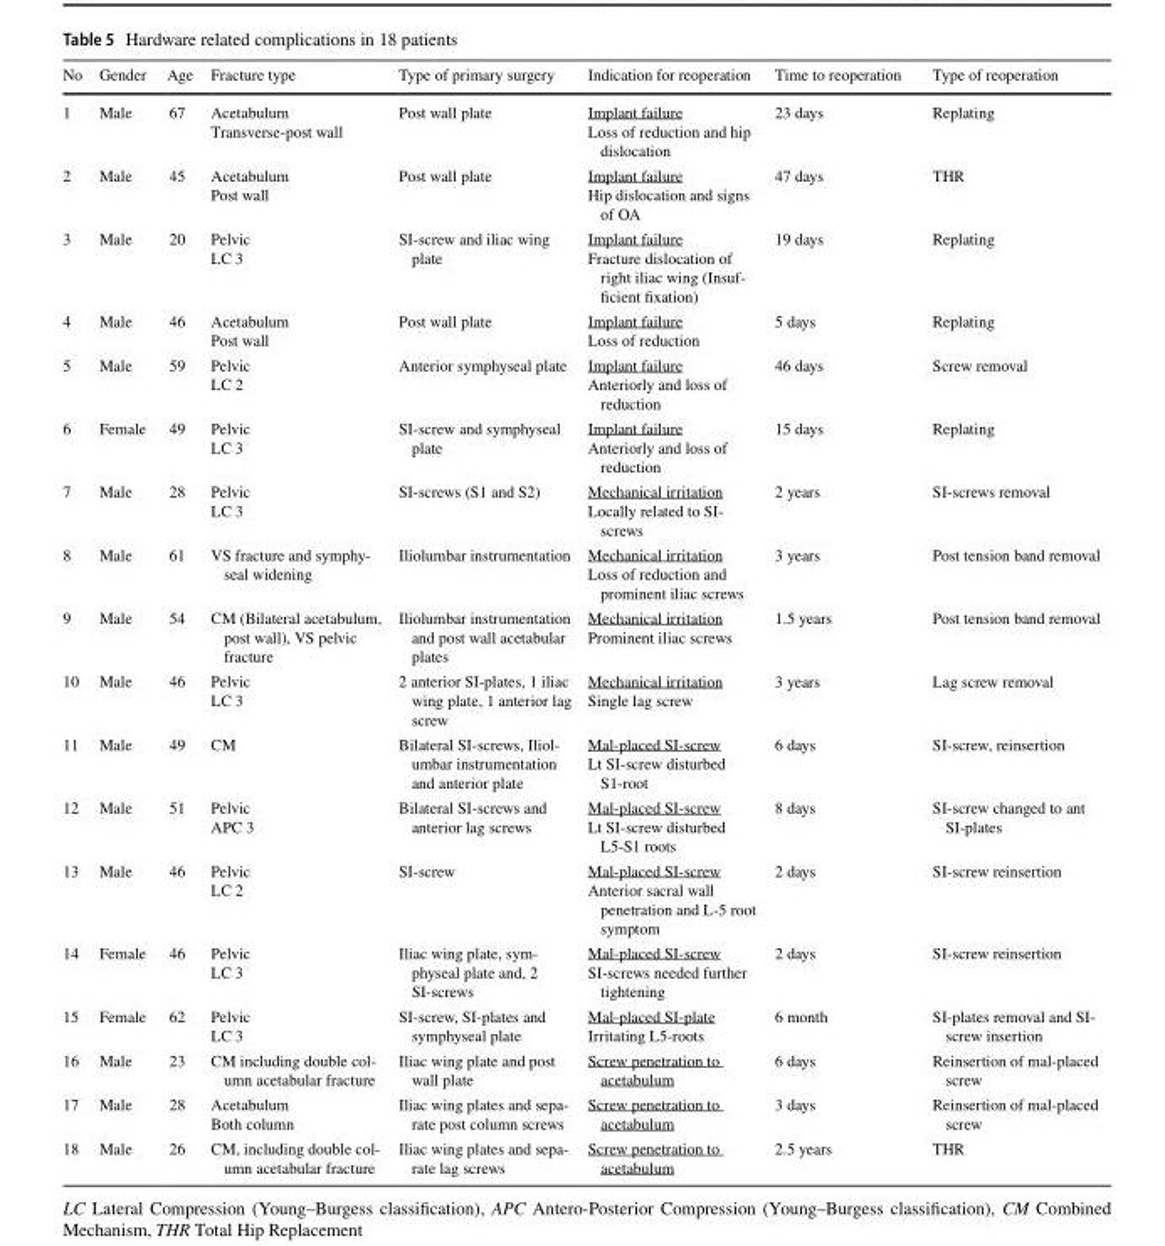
<table><thead><tr><td>No</td><td>Gender</td><td>Age</td><td>Fracture type</td><td>Type of primary surgery</td><td>Indication for reoperation</td><td>Time to reoperation</td><td>Type of reoperation</td></tr></thead><tbody><tr><td>1</td><td>Male</td><td>67</td><td>Acetabulum Transverse-post wall</td><td>Post wall plate</td><td>Implant failure Loss of reduction and hip dislocation</td><td>23 days</td><td>Replating</td></tr><tr><td>2</td><td>Male</td><td>45</td><td>Acetabulum Post wall</td><td>Post wall plate</td><td>Implant failure Hip dislocation and signs of OA</td><td>47 days</td><td>THR</td></tr><tr><td>3</td><td>Male</td><td>20</td><td>Pelvic LC 3</td><td>SI-screw and iliac wing plate</td><td>Implant failure Fracture dislocation of right iliac wing (Insuf- ficient fixation)</td><td>19 days</td><td>Replating</td></tr><tr><td>4</td><td>Male</td><td>46</td><td>Acetabulum Post wall</td><td>Post wall plate</td><td>Implant failure Loss of reduction</td><td>5 days</td><td>Replating</td></tr><tr><td>5</td><td>Male</td><td>59</td><td>Pelvic LC 2</td><td>Anterior symphyseal plate</td><td>Implant failure Anteriorly and loss of reduction</td><td>46 days</td><td>Screw removal</td></tr><tr><td>6</td><td>Female</td><td>49</td><td>Pelvic LC 3</td><td>SI-screw and symphyseal plate</td><td>Implant failure Anteriorly and loss of reduction</td><td>15 days</td><td>Replating</td></tr><tr><td>7</td><td>Male</td><td>28</td><td>Pelvic LC 3</td><td>SI-screws (S1 and S2)</td><td>Mechanical irritation Locally related to SI- screws</td><td>2 years</td><td>SI-screws removal</td></tr><tr><td>8</td><td>Male</td><td>61</td><td>VS fracture and symphy- seal widening</td><td>Iliolumbar instrumentation</td><td>Mechanical irritation Loss of reduction and prominent iliac screws</td><td>3 years</td><td>Post tension band removal</td></tr><tr><td>9</td><td>Male</td><td>54</td><td>CM (Bilateral acetabulum, post wall), VS pelvic fracture</td><td>Iliolumbar instrumentation and post wall acetabular plates</td><td>Mechanical irritation Prominent iliac screws</td><td>1.5 years</td><td>Post tension band removal</td></tr><tr><td>10</td><td>Male</td><td>46</td><td>Pelvic LC 3</td><td>2 anterior SI-plates, 1 iliac wing plate, 1 anterior lag screw</td><td>Mechanical irritation Single lag screw</td><td>3 years</td><td>Lag screw removal</td></tr><tr><td>11</td><td>Male</td><td>49</td><td>CM</td><td>Bilateral SI-screws, Iliol- umbar instrumentation and anterior plate</td><td>Mal-placed SI-screw Lt SI-screw disturbed S1-root</td><td>6 days</td><td>SI-screw, reinsertion</td></tr><tr><td>12</td><td>Male</td><td>51</td><td>Pelvic APC 3</td><td>Bilateral SI-screws and anterior lag screws</td><td>Mal-placed SI-screw Lt SI-screw disturbed L5-S1 roots</td><td>8 days</td><td>SI-screw changed to ant SI-plates</td></tr><tr><td>13</td><td>Male</td><td>46</td><td>Pelvic LC 2</td><td>SI-screw</td><td>Mal-placed SI-screw Anterior sacral wall penetration and L-5 root symptom</td><td>2 days</td><td>SI-screw reinsertion</td></tr><tr><td>14</td><td>Female</td><td>46</td><td>Pelvic LC 3</td><td>Iliac wing plate, sym- physeal plate and, 2 SI-screws</td><td>Mal-placed SI-screw SI-screws needed further tightening</td><td>2 days</td><td>SI-screw reinsertion</td></tr><tr><td>15</td><td>Female</td><td>62</td><td>Pelvic LC 3</td><td>SI-screw, SI-plates and symphyseal plate</td><td>Mal-placed SI-plate Irritating L5-roots</td><td>6 month</td><td>SI-plates removal and SI- screw insertion</td></tr><tr><td>16</td><td>Male</td><td>23</td><td>CM including double col- umn acetabular fracture</td><td>Iliac wing plate and post wall plate</td><td>Screw penetration to acetabulum</td><td>6 days</td><td>Reinsertion of mal-placed screw</td></tr><tr><td>17</td><td>Male</td><td>28</td><td>Acetabulum Both column</td><td>Iliac wing plates and sepa- rate post column screws</td><td>Screw penetration to acetabulum</td><td>3 days</td><td>Reinsertion of mal-placed screw</td></tr><tr><td>18</td><td>Male</td><td>26</td><td>CM, including double col- umn acetabular fracture</td><td>Iliac wing plates and sepa- rate lag screws</td><td>Screw penetration to acetabulum</td><td>2.5 years</td><td>THR</td></tr></tbody></table>